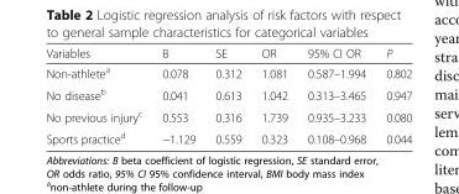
<table><thead><tr><td>Variables</td><td>B</td><td>SE</td><td>OR</td><td>95% CI OR</td><td>P</td></tr></thead><tbody><tr><td>Non-athlete<sup>a</sup></td><td>0.078</td><td>0.312</td><td>1.081</td><td>0.587–1.994</td><td>0.802</td></tr><tr><td>No disease<sup>b</sup></td><td>0.041</td><td>0.613</td><td>1.042</td><td>0.313–3.465</td><td>0.947</td></tr><tr><td>No previous injury<sup>c</sup></td><td>0.553</td><td>0.316</td><td>1.739</td><td>0.935–3.233</td><td>0.080</td></tr><tr><td>Sports practice<sup>d</sup></td><td>−1.129</td><td>0.559</td><td>0.323</td><td>0.108–0.968</td><td>0.044</td></tr></tbody></table>